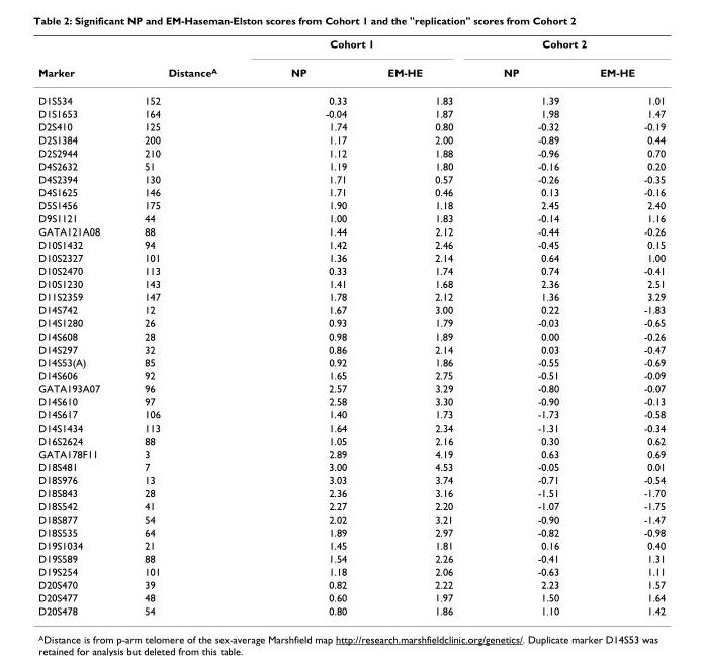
<table><thead><tr><td rowspan="2">Marker</td><td rowspan="2">DistanceA</td><td colspan="2">Cohort 1</td><td colspan="2">Cohort 2</td></tr><tr><td>NP</td><td>EM-HE</td><td>NP</td><td>EM-HE</td></tr></thead><tbody><tr><td>D1S534</td><td>152</td><td>0.33</td><td>1.83</td><td>1.39</td><td>1.01</td></tr><tr><td>D1S1653</td><td>164</td><td>-0.04</td><td>1.87</td><td>1.98</td><td>1.47</td></tr><tr><td>D2S410</td><td>125</td><td>1.74</td><td>0.80</td><td>-0.32</td><td>-0.19</td></tr><tr><td>D2S1384</td><td>200</td><td>1.17</td><td>2.00</td><td>-0.89</td><td>0.44</td></tr><tr><td>D2S2944</td><td>210</td><td>1.12</td><td>1.88</td><td>-0.96</td><td>0.70</td></tr><tr><td>D4S2632</td><td>51</td><td>1.19</td><td>1.80</td><td>-0.16</td><td>0.20</td></tr><tr><td>D4S2394</td><td>130</td><td>1.71</td><td>0.57</td><td>-0.26</td><td>-0.35</td></tr><tr><td>D4S1625</td><td>146</td><td>1.71</td><td>0.46</td><td>0.13</td><td>-0.16</td></tr><tr><td>D5S1456</td><td>175</td><td>1.90</td><td>1.18</td><td>2.45</td><td>2.40</td></tr><tr><td>D9S1121</td><td>44</td><td>1.00</td><td>1.83</td><td>-0.14</td><td>1.16</td></tr><tr><td>GATA121A08</td><td>88</td><td>1.44</td><td>2.12</td><td>-0.44</td><td>-0.26</td></tr><tr><td>D10S1432</td><td>94</td><td>1.42</td><td>2.46</td><td>-0.45</td><td>0.15</td></tr><tr><td>D10S2327</td><td>101</td><td>1.36</td><td>2.14</td><td>0.64</td><td>1.00</td></tr><tr><td>D10S2470</td><td>113</td><td>0.33</td><td>1.74</td><td>0.74</td><td>-0.41</td></tr><tr><td>D10S1230</td><td>143</td><td>1.41</td><td>1.68</td><td>2.36</td><td>2.51</td></tr><tr><td>D11S2359</td><td>147</td><td>1.78</td><td>2.12</td><td>1.36</td><td>3.29</td></tr><tr><td>D14S742</td><td>12</td><td>1.67</td><td>3.00</td><td>0.22</td><td>-1.83</td></tr><tr><td>D14S1280</td><td>26</td><td>0.93</td><td>1.79</td><td>-0.03</td><td>-0.65</td></tr><tr><td>D14S608</td><td>28</td><td>0.98</td><td>1.89</td><td>0.00</td><td>-0.26</td></tr><tr><td>D14S297</td><td>32</td><td>0.86</td><td>2.14</td><td>0.03</td><td>-0.47</td></tr><tr><td>D14S53(A)</td><td>85</td><td>0.92</td><td>1.86</td><td>-0.55</td><td>-0.69</td></tr><tr><td>D14S606</td><td>92</td><td>1.65</td><td>2.75</td><td>-0.51</td><td>-0.09</td></tr><tr><td>GATA193A07</td><td>96</td><td>2.57</td><td>3.29</td><td>-0.80</td><td>-0.07</td></tr><tr><td>D14S610</td><td>97</td><td>2.58</td><td>3.30</td><td>-0.90</td><td>-0.13</td></tr><tr><td>D14S617</td><td>106</td><td>1.40</td><td>1.73</td><td>-1.73</td><td>-0.58</td></tr><tr><td>D14S1434</td><td>113</td><td>1.64</td><td>2.34</td><td>-1.31</td><td>-0.34</td></tr><tr><td>D16S2624</td><td>88</td><td>1.05</td><td>2.16</td><td>0.30</td><td>0.62</td></tr><tr><td>GATA178F11</td><td>3</td><td>2.89</td><td>4.19</td><td>0.63</td><td>0.69</td></tr><tr><td>D18S481</td><td>7</td><td>3.00</td><td>4.53</td><td>-0.05</td><td>0.01</td></tr><tr><td>D18S976</td><td>13</td><td>3.03</td><td>3.74</td><td>-0.71</td><td>-0.54</td></tr><tr><td>D18S843</td><td>28</td><td>2.36</td><td>3.16</td><td>-1.51</td><td>-1.70</td></tr><tr><td>D18S542</td><td>41</td><td>2.27</td><td>2.20</td><td>-1.07</td><td>-1.75</td></tr><tr><td>D18S877</td><td>54</td><td>2.02</td><td>3.21</td><td>-0.90</td><td>-1.47</td></tr><tr><td>D18S535</td><td>64</td><td>1.89</td><td>2.97</td><td>-0.82</td><td>-0.98</td></tr><tr><td>D19S1034</td><td>21</td><td>1.45</td><td>1.81</td><td>0.16</td><td>0.40</td></tr><tr><td>D19S589</td><td>88</td><td>1.54</td><td>2.26</td><td>-0.41</td><td>1.31</td></tr><tr><td>D19S254</td><td>101</td><td>1.18</td><td>2.06</td><td>-0.63</td><td>1.11</td></tr><tr><td>D20S470</td><td>39</td><td>0.82</td><td>2.22</td><td>2.23</td><td>1.57</td></tr><tr><td>D20S477</td><td>48</td><td>0.60</td><td>1.97</td><td>1.50</td><td>1.64</td></tr><tr><td>D20S478</td><td>54</td><td>0.80</td><td>1.86</td><td>1.10</td><td>1.42</td></tr></tbody></table>